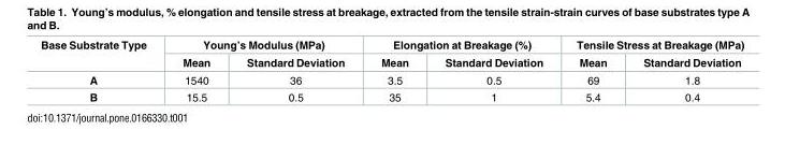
<table><thead><tr><td rowspan="2">Base Substrate Type</td><td colspan="2">Young’s Modulus (MPa)</td><td colspan="2">Elongation at Breakage (%)</td><td colspan="2">Tensile Stress at Breakage (MPa)</td></tr><tr><td>Mean</td><td>Standard Deviation</td><td>Mean</td><td>Standard Deviation</td><td>Mean</td><td>Standard Deviation</td></tr></thead><tbody><tr><td>A</td><td>1540</td><td>36</td><td>3.5</td><td>0.5</td><td>69</td><td>1.8</td></tr><tr><td>B</td><td>15.5</td><td>0.5</td><td>35</td><td>1</td><td>5.4</td><td>0.4</td></tr></tbody></table>